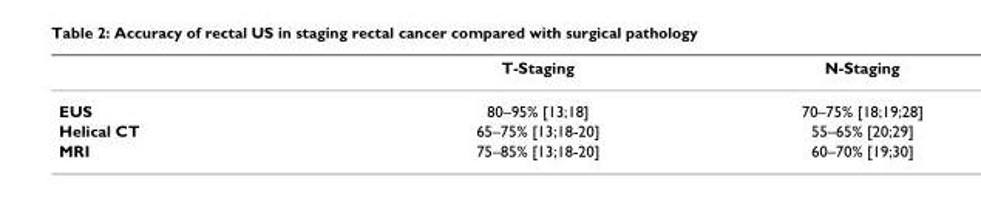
<table><thead><tr><td></td><td>T-Staging</td><td>N-Staging</td></tr></thead><tbody><tr><td>EUS</td><td>80–95% [13;18]</td><td>70–75% [18;19;28]</td></tr><tr><td>Helical CT</td><td>65–75% [13;18-20]</td><td>55–65% [20;29]</td></tr><tr><td>MRI</td><td>75–85% [13;18-20]</td><td>60–70% [19;30]</td></tr></tbody></table>